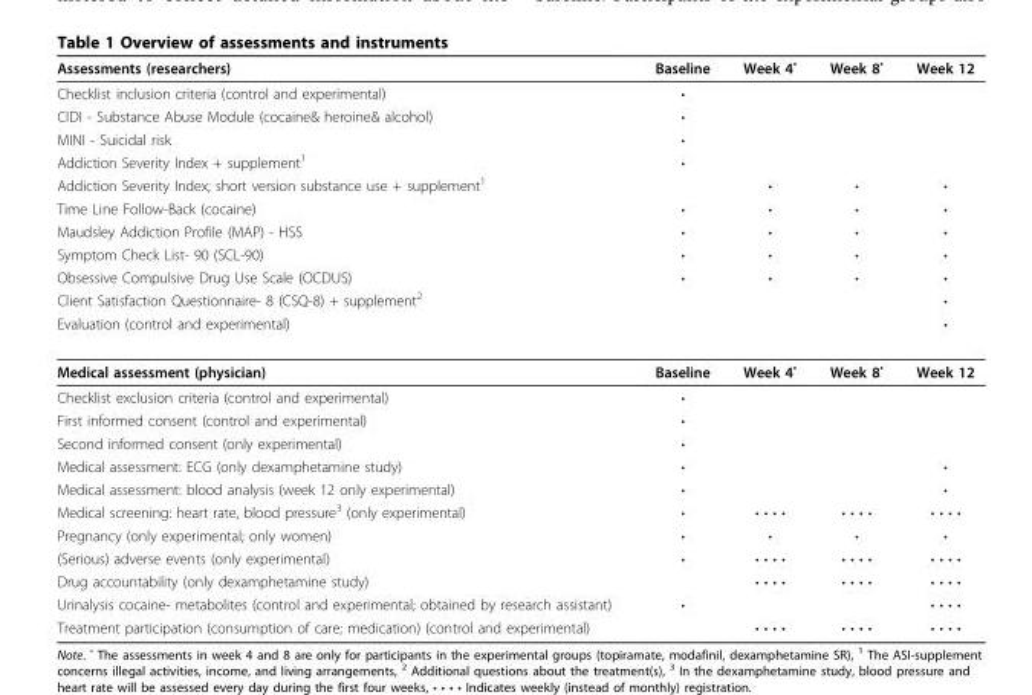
<table><thead><tr><td>Assessments (researchers)</td><td>Baseline</td><td>Week 4<sup>•</sup></td><td>Week 8<sup>•</sup></td><td>Week 12</td></tr></thead><tbody><tr><td>Checklist inclusion criteria (control and experimental)</td><td>•</td><td></td><td></td><td></td></tr><tr><td>CIDI - Substance Abuse Module (cocaine&amp; heroine&amp; alcohol)</td><td>•</td><td></td><td></td><td></td></tr><tr><td>MINI - Suicidal risk</td><td>•</td><td></td><td></td><td></td></tr><tr><td>Addiction Severity Index + supplement<sup>1</sup></td><td>•</td><td></td><td></td><td></td></tr><tr><td>Addiction Severity Index; short version substance use + supplement<sup>1</sup></td><td></td><td>•</td><td>•</td><td>•</td></tr><tr><td>Time Line Follow-Back (cocaine)</td><td>•</td><td>•</td><td>•</td><td>•</td></tr><tr><td>Maudsley Addiction Profile (MAP) - HSS</td><td>•</td><td>•</td><td>•</td><td>•</td></tr><tr><td>Symptom Check List- 90 (SCL-90)</td><td>•</td><td>•</td><td>•</td><td>•</td></tr><tr><td>Obsessive Compulsive Drug Use Scale (OCDUS)</td><td>•</td><td>•</td><td>•</td><td>•</td></tr><tr><td>Client Satisfaction Questionnaire- 8 (CSQ-8) + supplement<sup>2</sup></td><td></td><td></td><td></td><td>•</td></tr><tr><td>Evaluation (control and experimental)</td><td></td><td></td><td></td><td>•</td></tr><tr><td>Medical assessment (physician)</td><td>Baseline</td><td>Week 4<sup>•</sup></td><td>Week 8<sup>•</sup></td><td>Week 12</td></tr><tr><td>Checklist exclusion criteria (control and experimental)</td><td>•</td><td></td><td></td><td></td></tr><tr><td>First informed consent (control and experimental)</td><td>•</td><td></td><td></td><td></td></tr><tr><td>Second informed consent (only experimental)</td><td>•</td><td></td><td></td><td></td></tr><tr><td>Medical assessment: ECG (only dexamphetamine study)</td><td>•</td><td></td><td></td><td>•</td></tr><tr><td>Medical assessment: blood analysis (week 12 only experimental)</td><td>•</td><td></td><td></td><td>•</td></tr><tr><td>Medical screening: heart rate, blood pressure<sup>3</sup> (only experimental)</td><td>•</td><td>• • • •</td><td>• • • •</td><td>• • • •</td></tr><tr><td>Pregnancy (only experimental; only women)</td><td>•</td><td>•</td><td>•</td><td>•</td></tr><tr><td>(Serious) adverse events (only experimental)</td><td>•</td><td>• • • •</td><td>• • • •</td><td>• • • •</td></tr><tr><td>Drug accountability (only dexamphetamine study)</td><td></td><td>• • • •</td><td>• • • •</td><td>• • • •</td></tr><tr><td>Urinalysis cocaine- metabolites (control and experimental; obtained by research assistant)</td><td>•</td><td></td><td></td><td>• • • •</td></tr><tr><td>Treatment participation (consumption of care; medication) (control and experimental)</td><td></td><td>• • • •</td><td>• • • •</td><td>• • • •</td></tr></tbody></table>